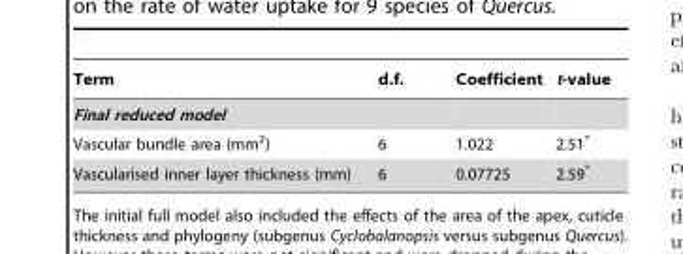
<table><thead><tr><td>Term</td><td>d.f.</td><td>Coefficient</td><td>t-value</td></tr></thead><tbody><tr><td colspan="4">Final reduced model</td></tr><tr><td>Vascular bundle area (mm<sup>2</sup>)</td><td>6</td><td>1.022</td><td>2.51*</td></tr><tr><td>Vascularised inner layer thickness (mm)</td><td>6</td><td>0.07725</td><td>2.59*</td></tr></tbody></table>